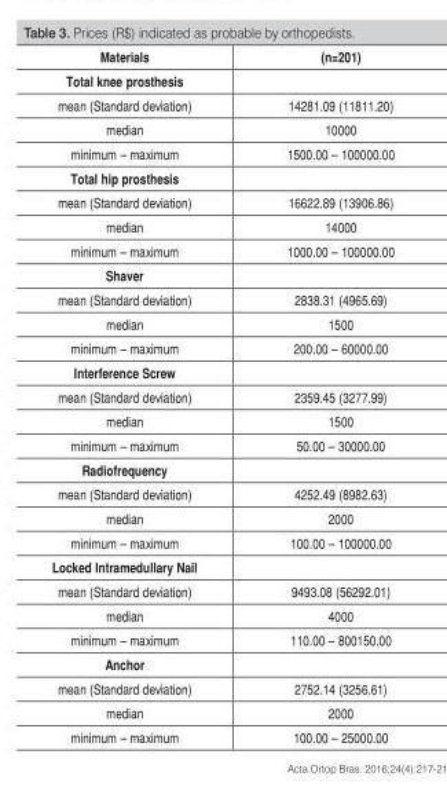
<table><thead><tr><td rowspan="2">Materials Total knee prosthesis</td><td rowspan="2">(n=201)</td></tr><tr></tr></thead><tbody><tr><td>mean (Standard deviation)</td><td>14281.09 (11811.20)</td></tr><tr><td>median</td><td>10000</td></tr><tr><td>minimum – maximum</td><td>1500.00 – 100000.00</td></tr><tr><td colspan="2">Total hip prosthesis</td></tr><tr><td>mean (Standard deviation)</td><td>16622.89 (13906.86)</td></tr><tr><td>median</td><td>14000</td></tr><tr><td>minimum – maximum</td><td>1000.00 – 100000.00</td></tr><tr><td colspan="2">Shaver</td></tr><tr><td>mean (Standard deviation)</td><td>2838.31 (4965.69)</td></tr><tr><td>median</td><td>1500</td></tr><tr><td>minimum – maximum</td><td>200.00 – 60000.00</td></tr><tr><td colspan="2">Interference Screw</td></tr><tr><td>mean (Standard deviation)</td><td>2359.45 (3277.99)</td></tr><tr><td>median</td><td>1500</td></tr><tr><td>minimum – maximum</td><td>50.00 – 30000.00</td></tr><tr><td colspan="2">Radiofrequency</td></tr><tr><td>mean (Standard deviation)</td><td>4252.49 (8982.63)</td></tr><tr><td>median</td><td>2000</td></tr><tr><td>minimum – maximum</td><td>100.00 – 100000.00</td></tr><tr><td colspan="2">Locked Intramedullary Nail</td></tr><tr><td>mean (Standard deviation)</td><td>9493.08 (56292.01)</td></tr><tr><td>median</td><td>4000</td></tr><tr><td>minimum – maximum</td><td>110.00 – 800150.00</td></tr><tr><td colspan="2">Anchor</td></tr><tr><td>mean (Standard deviation)</td><td>2752.14 (3256.61)</td></tr><tr><td>median</td><td>2000</td></tr><tr><td>minimum – maximum</td><td>100.00 – 25000.00</td></tr></tbody></table>